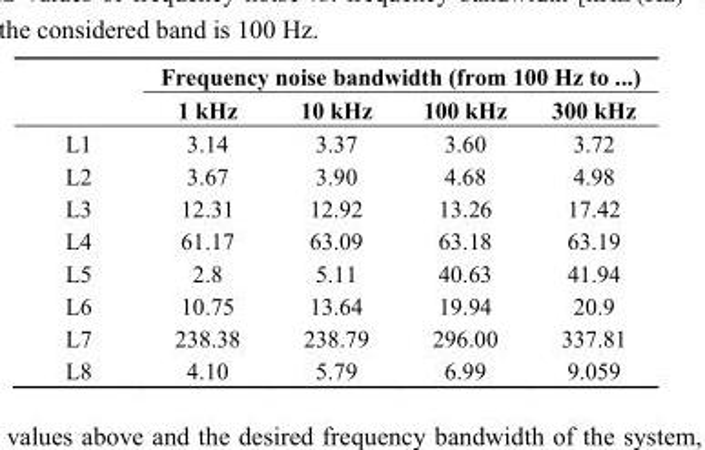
<table><thead><tr><td rowspan="2"></td><td colspan="4">Frequency noise bandwidth (from 100 Hz to ...)</td></tr><tr><td>1 kHz</td><td>10 kHz</td><td>100 kHz</td><td>300 kHz</td></tr></thead><tbody><tr><td>L1</td><td>3.14</td><td>3.37</td><td>3.60</td><td>3.72</td></tr><tr><td>L2</td><td>3.67</td><td>3.90</td><td>4.68</td><td>4.98</td></tr><tr><td>L3</td><td>12.31</td><td>12.92</td><td>13.26</td><td>17.42</td></tr><tr><td>L4</td><td>61.17</td><td>63.09</td><td>63.18</td><td>63.19</td></tr><tr><td>L5</td><td>2.8</td><td>5.11</td><td>40.63</td><td>41.94</td></tr><tr><td>L6</td><td>10.75</td><td>13.64</td><td>19.94</td><td>20.9</td></tr><tr><td>L7</td><td>238.38</td><td>238.79</td><td>296.00</td><td>337.81</td></tr><tr><td>L8</td><td>4.10</td><td>5.79</td><td>6.99</td><td>9.059</td></tr></tbody></table>